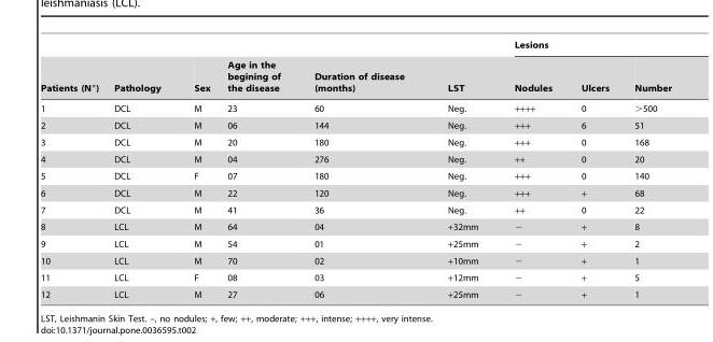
<table><thead><tr><td rowspan="2">Patients (N°)</td><td rowspan="2">Pathology</td><td rowspan="2">Sex</td><td rowspan="2">Age in the begining of the disease</td><td rowspan="2">Duration of disease (months)</td><td rowspan="2">LST</td><td colspan="3">Lesions</td></tr><tr><td>Nodules</td><td>Ulcers</td><td>Number</td></tr></thead><tbody><tr><td>1</td><td>DCL</td><td>M</td><td>23</td><td>60</td><td>Neg.</td><td>++++</td><td>0</td><td>&gt;500</td></tr><tr><td>2</td><td>DCL</td><td>M</td><td>06</td><td>144</td><td>Neg.</td><td>+++</td><td>6</td><td>51</td></tr><tr><td>3</td><td>DCL</td><td>M</td><td>20</td><td>180</td><td>Neg.</td><td>+++</td><td>0</td><td>168</td></tr><tr><td>4</td><td>DCL</td><td>M</td><td>04</td><td>276</td><td>Neg.</td><td>++</td><td>0</td><td>20</td></tr><tr><td>5</td><td>DCL</td><td>F</td><td>07</td><td>180</td><td>Neg.</td><td>+++</td><td>0</td><td>140</td></tr><tr><td>6</td><td>DCL</td><td>M</td><td>22</td><td>120</td><td>Neg.</td><td>+++</td><td>+</td><td>68</td></tr><tr><td>7</td><td>DCL</td><td>M</td><td>41</td><td>36</td><td>Neg.</td><td>++</td><td>0</td><td>22</td></tr><tr><td>8</td><td>LCL</td><td>M</td><td>64</td><td>04</td><td>+32mm</td><td>−</td><td>+</td><td>8</td></tr><tr><td>9</td><td>LCL</td><td>M</td><td>54</td><td>01</td><td>+25mm</td><td>−</td><td>+</td><td>2</td></tr><tr><td>10</td><td>LCL</td><td>M</td><td>70</td><td>02</td><td>+10mm</td><td>−</td><td>+</td><td>1</td></tr><tr><td>11</td><td>LCL</td><td>F</td><td>08</td><td>03</td><td>+12mm</td><td>−</td><td>+</td><td>5</td></tr><tr><td>12</td><td>LCL</td><td>M</td><td>27</td><td>06</td><td>+25mm</td><td>−</td><td>+</td><td>1</td></tr></tbody></table>